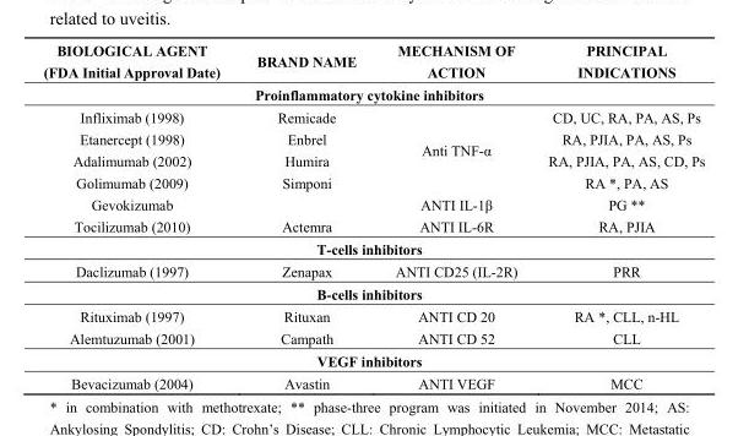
<table><thead><tr><td>BIOLOGICAL AGENT (FDA Initial Approval Date)</td><td>BRAND NAME</td><td>MECHANISM OF ACTION</td><td>PRINCIPAL INDICATIONS</td></tr></thead><tbody><tr><td colspan="4">Proinflammatory cytokine inhibitors</td></tr><tr><td>Infliximab (1998)</td><td>Remicade</td><td rowspan="4">Anti TNF-α</td><td>CD, UC, RA, PA, AS, Ps</td></tr><tr><td>Etanercept (1998)</td><td>Enbrel</td><td>RA, PJIA, PA, AS, Ps</td></tr><tr><td>Adalimumab (2002)</td><td>Humira</td><td>RA, PJIA, PA, AS, CD, Ps</td></tr><tr><td>Golimumab (2009)</td><td>Simponi</td><td>RA *, PA, AS</td></tr><tr><td>Gevokizumab</td><td></td><td>ANTI IL-1β</td><td>PG **</td></tr><tr><td>Tocilizumab (2010)</td><td>Actemra</td><td>ANTI IL-6R</td><td>RA, PJIA</td></tr><tr><td colspan="4">T-cells inhibitors</td></tr><tr><td>Daclizumab (1997)</td><td>Zenapax</td><td>ANTI CD25 (IL-2R)</td><td>PRR</td></tr><tr><td colspan="4">B-cells inhibitors</td></tr><tr><td>Rituximab (1997)</td><td>Rituxan</td><td>ANTI CD 20</td><td>RA *, CLL, n-HL</td></tr><tr><td>Alemtuzumab (2001)</td><td>Campath</td><td>ANTI CD 52</td><td>CLL</td></tr><tr><td colspan="4">VEGF inhibitors</td></tr><tr><td>Bevacizumab (2004)</td><td>Avastin</td><td>ANTI VEGF</td><td>MCC</td></tr></tbody></table>